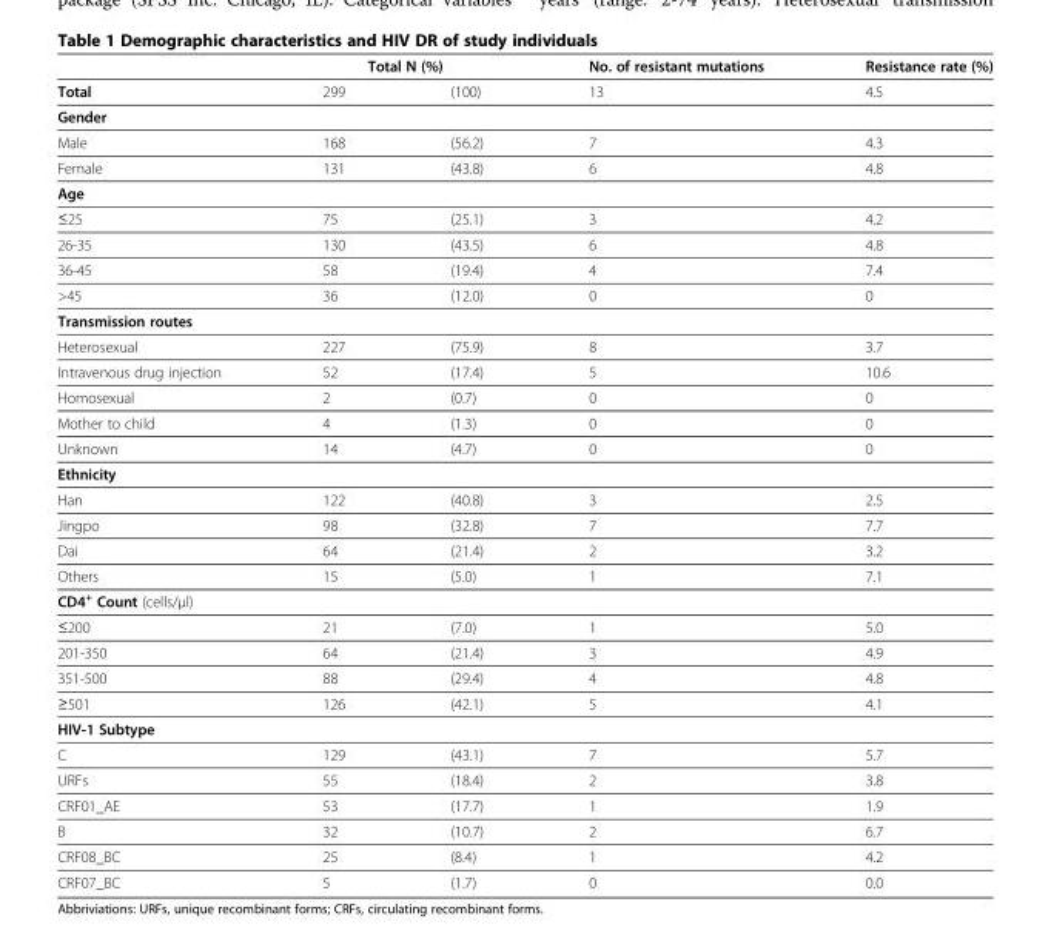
<table><thead><tr><td rowspan="2">Total</td><td colspan="2">Total N (%)</td><td rowspan="2">No. of resistant mutations 13</td><td rowspan="2">Resistance rate (%) 4.5</td></tr><tr><td>299</td><td>(100)</td></tr></thead><tbody><tr><td colspan="5">Gender</td></tr><tr><td>Male</td><td>168</td><td>(56.2)</td><td>7</td><td>4.3</td></tr><tr><td>Female</td><td>131</td><td>(43.8)</td><td>6</td><td>4.8</td></tr><tr><td colspan="5">Age</td></tr><tr><td>≤25</td><td>75</td><td>(25.1)</td><td>3</td><td>4.2</td></tr><tr><td>26-35</td><td>130</td><td>(43.5)</td><td>6</td><td>4.8</td></tr><tr><td>36-45</td><td>58</td><td>(19.4)</td><td>4</td><td>7.4</td></tr><tr><td>&gt;45</td><td>36</td><td>(12.0)</td><td>0</td><td>0</td></tr><tr><td colspan="5">Transmission routes</td></tr><tr><td>Heterosexual</td><td>227</td><td>(75.9)</td><td>8</td><td>3.7</td></tr><tr><td>Intravenous drug injection</td><td>52</td><td>(17.4)</td><td>5</td><td>10.6</td></tr><tr><td>Homosexual</td><td>2</td><td>(0.7)</td><td>0</td><td>0</td></tr><tr><td>Mother to child</td><td>4</td><td>(1.3)</td><td>0</td><td>0</td></tr><tr><td>Unknown</td><td>14</td><td>(4.7)</td><td>0</td><td>0</td></tr><tr><td colspan="5">Ethnicity</td></tr><tr><td>Han</td><td>122</td><td>(40.8)</td><td>3</td><td>2.5</td></tr><tr><td>Jingpo</td><td>98</td><td>(32.8)</td><td>7</td><td>7.7</td></tr><tr><td>Dai</td><td>64</td><td>(21.4)</td><td>2</td><td>3.2</td></tr><tr><td>Others</td><td>15</td><td>(5.0)</td><td>1</td><td>7.1</td></tr><tr><td colspan="5">CD4<sup>+</sup> Count (cells/μl)</td></tr><tr><td>≤200</td><td>21</td><td>(7.0)</td><td>1</td><td>5.0</td></tr><tr><td>201-350</td><td>64</td><td>(21.4)</td><td>3</td><td>4.9</td></tr><tr><td>351-500</td><td>88</td><td>(29.4)</td><td>4</td><td>4.8</td></tr><tr><td>≥501</td><td>126</td><td>(42.1)</td><td>5</td><td>4.1</td></tr><tr><td colspan="5">HIV-1 Subtype</td></tr><tr><td>C</td><td>129</td><td>(43.1)</td><td>7</td><td>5.7</td></tr><tr><td>URFs</td><td>55</td><td>(18.4)</td><td>2</td><td>3.8</td></tr><tr><td>CRF01_AE</td><td>53</td><td>(17.7)</td><td>1</td><td>1.9</td></tr><tr><td>B</td><td>32</td><td>(10.7)</td><td>2</td><td>6.7</td></tr><tr><td>CRF08_BC</td><td>25</td><td>(8.4)</td><td>1</td><td>4.2</td></tr><tr><td>CRF07_BC</td><td>5</td><td>(1.7)</td><td>0</td><td>0.0</td></tr></tbody></table>